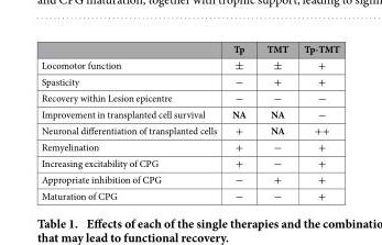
<table><thead><tr><td></td><td>Tp</td><td>TMT</td><td>Tp-TMT</td></tr></thead><tbody><tr><td>Locomotor function</td><td>±</td><td>±</td><td>+</td></tr><tr><td>Spasticity</td><td>−</td><td>+</td><td>+</td></tr><tr><td>Recovery within Lesion epicentre</td><td>−</td><td>−</td><td>−</td></tr><tr><td>Improvement in transplanted cell survival</td><td>NA</td><td>NA</td><td>−</td></tr><tr><td>Neuronal differentiation of transplanted cells</td><td>+</td><td>NA</td><td>+ +</td></tr><tr><td>Remyelination</td><td>+</td><td>−</td><td>+</td></tr><tr><td>Increasing excitability of CPG</td><td>+</td><td>−</td><td>+</td></tr><tr><td>Appropriate inhibition of CPG</td><td>−</td><td>+</td><td>+</td></tr><tr><td>Maturation of CPG</td><td>−</td><td>−</td><td>+</td></tr></tbody></table>